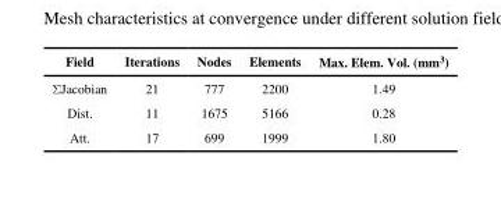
<table><thead><tr><td>Field</td><td>Iterations</td><td>Nodes</td><td>Elements</td><td>Max. Elem. Vol. (mm<sup>3</sup>)</td></tr></thead><tbody><tr><td>ΣJacobian</td><td>21</td><td>777</td><td>2200</td><td>1.49</td></tr><tr><td>Dist.</td><td>11</td><td>1675</td><td>5166</td><td>0.28</td></tr><tr><td>Att.</td><td>17</td><td>699</td><td>1999</td><td>1.80</td></tr></tbody></table>